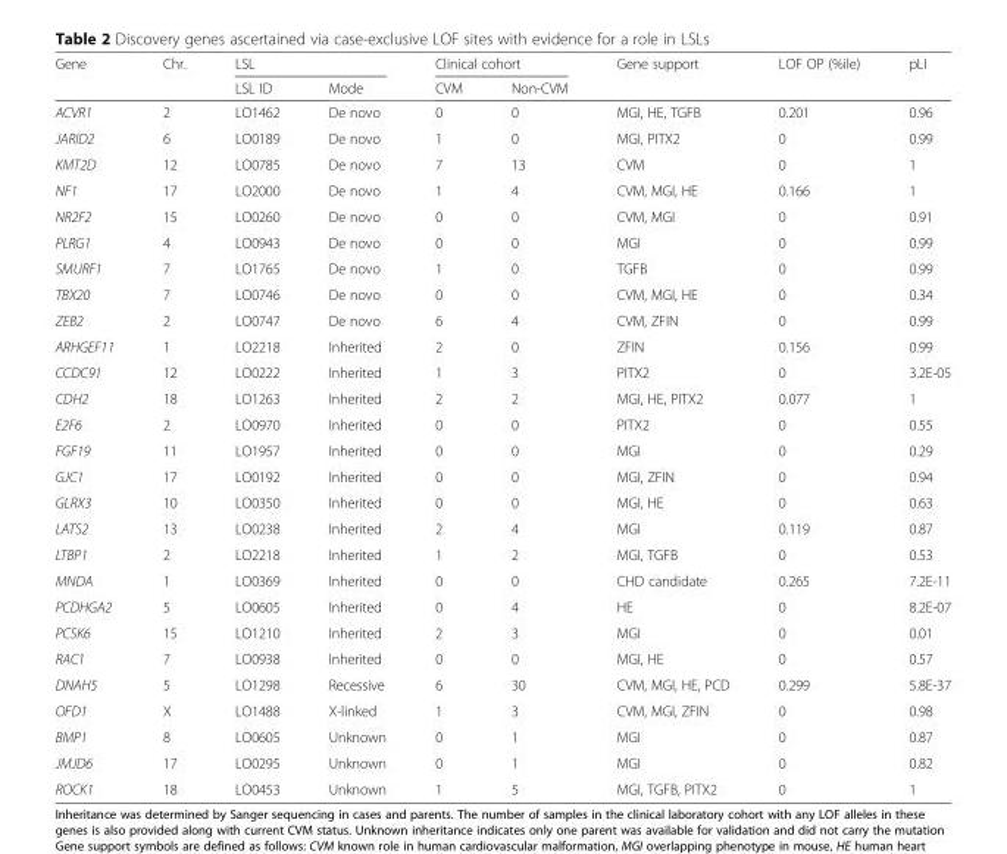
<table><thead><tr><td rowspan="2">Gene</td><td rowspan="2">Chr.</td><td colspan="2">LSL</td><td colspan="2">Clinical cohort</td><td rowspan="2">Gene support</td><td rowspan="2">LOF OP (%ile)</td><td rowspan="2">pLI</td></tr><tr><td>LSL ID</td><td>Mode</td><td>CVM</td><td>Non-CVM</td></tr></thead><tbody><tr><td>ACVR1</td><td>2</td><td>LO1462</td><td>De novo</td><td>0</td><td>0</td><td>MGI, HE, TGFB</td><td>0.201</td><td>0.96</td></tr><tr><td>JARID2</td><td>6</td><td>LO0189</td><td>De novo</td><td>1</td><td>0</td><td>MGI, PITX2</td><td>0</td><td>0.99</td></tr><tr><td>KMT2D</td><td>12</td><td>LO0785</td><td>De novo</td><td>7</td><td>13</td><td>CVM</td><td>0</td><td>1</td></tr><tr><td>NF1</td><td>17</td><td>LO2000</td><td>De novo</td><td>1</td><td>4</td><td>CVM, MGI, HE</td><td>0.166</td><td>1</td></tr><tr><td>NR2F2</td><td>15</td><td>LO0260</td><td>De novo</td><td>0</td><td>0</td><td>CVM, MGI</td><td>0</td><td>0.91</td></tr><tr><td>PLRG1</td><td>4</td><td>LO0943</td><td>De novo</td><td>0</td><td>0</td><td>MGI</td><td>0</td><td>0.99</td></tr><tr><td>SMURF1</td><td>7</td><td>LO1765</td><td>De novo</td><td>1</td><td>0</td><td>TGFB</td><td>0</td><td>0.99</td></tr><tr><td>TBX20</td><td>7</td><td>LO0746</td><td>De novo</td><td>0</td><td>0</td><td>CVM, MGI, HE</td><td>0</td><td>0.34</td></tr><tr><td>ZEB2</td><td>2</td><td>LO0747</td><td>De novo</td><td>6</td><td>4</td><td>CVM, ZFIN</td><td>0</td><td>0.99</td></tr><tr><td>ARHGEF11</td><td>1</td><td>LO2218</td><td>Inherited</td><td>2</td><td>0</td><td>ZFIN</td><td>0.156</td><td>0.99</td></tr><tr><td>CCDC91</td><td>12</td><td>LO0222</td><td>Inherited</td><td>1</td><td>3</td><td>PITX2</td><td>0</td><td>3.2E-05</td></tr><tr><td>CDH2</td><td>18</td><td>LO1263</td><td>Inherited</td><td>2</td><td>2</td><td>MGI, HE, PITX2</td><td>0.077</td><td>1</td></tr><tr><td>E2F6</td><td>2</td><td>LO0970</td><td>Inherited</td><td>0</td><td>0</td><td>PITX2</td><td>0</td><td>0.55</td></tr><tr><td>FGF19</td><td>11</td><td>LO1957</td><td>Inherited</td><td>0</td><td>0</td><td>MGI</td><td>0</td><td>0.29</td></tr><tr><td>GJC1</td><td>17</td><td>LO0192</td><td>Inherited</td><td>0</td><td>0</td><td>MGI, ZFIN</td><td>0</td><td>0.94</td></tr><tr><td>GLRX3</td><td>10</td><td>LO0350</td><td>Inherited</td><td>0</td><td>0</td><td>MGI, HE</td><td>0</td><td>0.63</td></tr><tr><td>LATS2</td><td>13</td><td>LO0238</td><td>Inherited</td><td>2</td><td>4</td><td>MGI</td><td>0.119</td><td>0.87</td></tr><tr><td>LTBP1</td><td>2</td><td>LO2218</td><td>Inherited</td><td>1</td><td>2</td><td>MGI, TGFB</td><td>0</td><td>0.53</td></tr><tr><td>MNDA</td><td>1</td><td>LO0369</td><td>Inherited</td><td>0</td><td>0</td><td>CHD candidate</td><td>0.265</td><td>7.2E-11</td></tr><tr><td>PCDHGA2</td><td>5</td><td>LO0605</td><td>Inherited</td><td>0</td><td>4</td><td>HE</td><td>0</td><td>8.2E-07</td></tr><tr><td>PCSK6</td><td>15</td><td>LO1210</td><td>Inherited</td><td>2</td><td>3</td><td>MGI</td><td>0</td><td>0.01</td></tr><tr><td>RAC1</td><td>7</td><td>LO0938</td><td>Inherited</td><td>0</td><td>0</td><td>MGI, HE</td><td>0</td><td>0.57</td></tr><tr><td>DNAH5</td><td>5</td><td>LO1298</td><td>Recessive</td><td>6</td><td>30</td><td>CVM, MGI, HE, PCD</td><td>0.299</td><td>5.8E-37</td></tr><tr><td>OFD1</td><td>X</td><td>LO1488</td><td>X-linked</td><td>1</td><td>3</td><td>CVM, MGI, ZFIN</td><td>0</td><td>0.98</td></tr><tr><td>BMP1</td><td>8</td><td>LO0605</td><td>Unknown</td><td>0</td><td>1</td><td>MGI</td><td>0</td><td>0.87</td></tr><tr><td>JMJD6</td><td>17</td><td>LO0295</td><td>Unknown</td><td>0</td><td>1</td><td>MGI</td><td>0</td><td>0.82</td></tr><tr><td>ROCK1</td><td>18</td><td>LO0453</td><td>Unknown</td><td>1</td><td>5</td><td>MGI, TGFB, PITX2</td><td>0</td><td>1</td></tr></tbody></table>